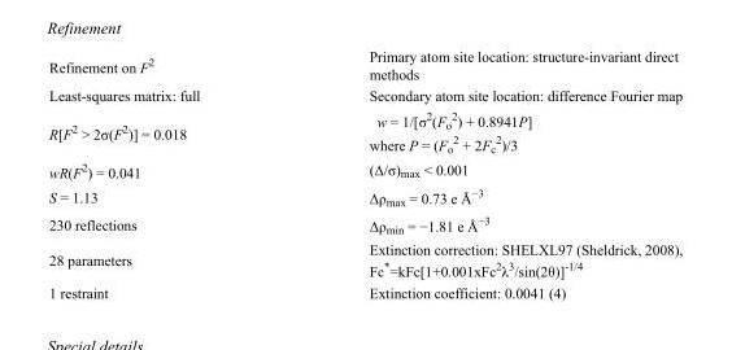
<table><tbody><tr><td>Refinement on F<sup>2</sup></td><td>Primary atom site location: structure-invariant direct methods</td></tr><tr><td>Least-squares matrix: full</td><td>Secondary atom site location: difference Fourier map</td></tr><tr><td>R[F<sup>2</sup> &gt; 2σ(F<sup>2</sup>)] = 0.018</td><td>w = 1/[σ<sup>2</sup>(F<sub>o</sub> <sup>2</sup>) + 0.8941P] where P = (F<sub>o</sub> <sup>2</sup> + 2F<sub>c</sub> <sup>2</sup>)/3</td></tr><tr><td>wR(F<sup>2</sup>) = 0.041</td><td>(Δ/σ)<sub>max</sub> &lt; 0.001</td></tr><tr><td>S = 1.13</td><td>Δρ<sub>max</sub> = 0.73 e Å<sup>−3</sup></td></tr><tr><td>230 reflections</td><td>Δρ<sub>min</sub> = −1.81 e Å<sup>−3</sup></td></tr><tr><td>28 parameters</td><td>Extinction correction: SHELXL97 (Sheldrick, 2008), Fc*=kFc[1+0.001xFc<sup>2</sup>λ<sup>3</sup>/sin(2θ)]<sup>-1/4</sup></td></tr><tr><td>1 restraint</td><td>Extinction coefficient: 0.0041 (4)</td></tr></tbody></table>